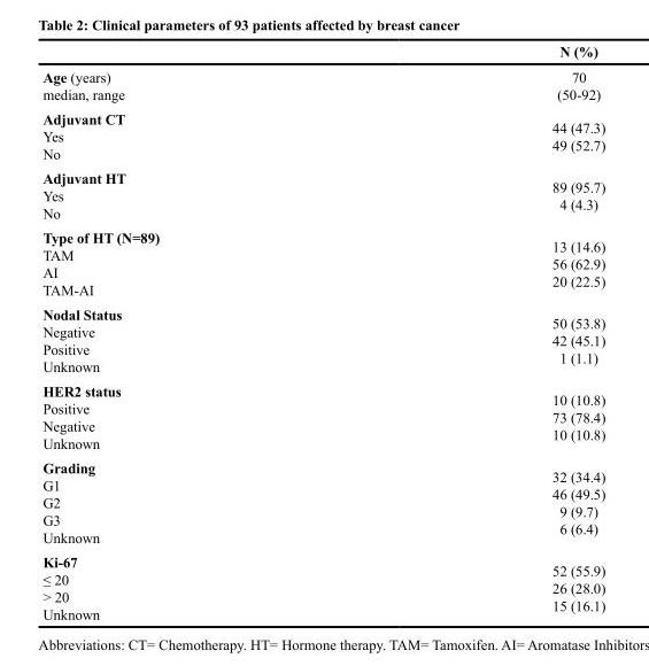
<table><thead><tr><td></td><td>N (%)</td></tr></thead><tbody><tr><td>Age (years) median, range</td><td>70 (50-92)</td></tr><tr><td>Adjuvant CT Yes No</td><td>44 (47.3) 49 (52.7)</td></tr><tr><td>Adjuvant HT Yes No</td><td>89 (95.7) 4 (4.3)</td></tr><tr><td>Type of HT (N=89) TAM AI TAM-AI</td><td>13 (14.6) 56 (62.9) 20 (22.5)</td></tr><tr><td>Nodal Status Negative Positive Unknown</td><td>50 (53.8) 42 (45.1) 1 (1.1)</td></tr><tr><td>HER2 status Positive Negative Unknown</td><td>10 (10.8) 73 (78.4) 10 (10.8)</td></tr><tr><td>Grading G1 G2 G3 Unknown</td><td>32 (34.4) 46 (49.5) 9 (9.7) 6 (6.4)</td></tr><tr><td>Ki-67 ≤ 20 &gt; 20 Unknown</td><td>52 (55.9) 26 (28.0) 15 (16.1)</td></tr></tbody></table>